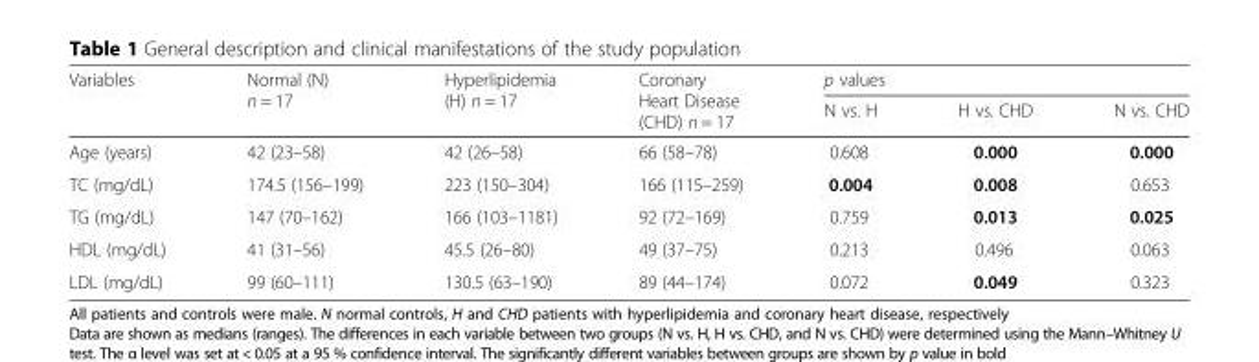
<table><thead><tr><td rowspan="2">Variables</td><td rowspan="2">Normal (N) n = 17</td><td rowspan="2">Hyperlipidemia (H) n = 17</td><td rowspan="2">Coronary Heart Disease (CHD) n = 17</td><td colspan="3">p values</td></tr><tr><td>N vs. H</td><td>H vs. CHD</td><td>N vs. CHD</td></tr></thead><tbody><tr><td>Age (years)</td><td>42 (23–58)</td><td>42 (26–58)</td><td>66 (58–78)</td><td>0.608</td><td>0.000</td><td>0.000</td></tr><tr><td>TC (mg/dL)</td><td>174.5 (156–199)</td><td>223 (150–304)</td><td>166 (115–259)</td><td>0.004</td><td>0.008</td><td>0.653</td></tr><tr><td>TG (mg/dL)</td><td>147 (70–162)</td><td>166 (103–1181)</td><td>92 (72–169)</td><td>0.759</td><td>0.013</td><td>0.025</td></tr><tr><td>HDL (mg/dL)</td><td>41 (31–56)</td><td>45.5 (26–80)</td><td>49 (37–75)</td><td>0.213</td><td>0.496</td><td>0.063</td></tr><tr><td>LDL (mg/dL)</td><td>99 (60–111)</td><td>130.5 (63–190)</td><td>89 (44–174)</td><td>0.072</td><td>0.049</td><td>0.323</td></tr></tbody></table>